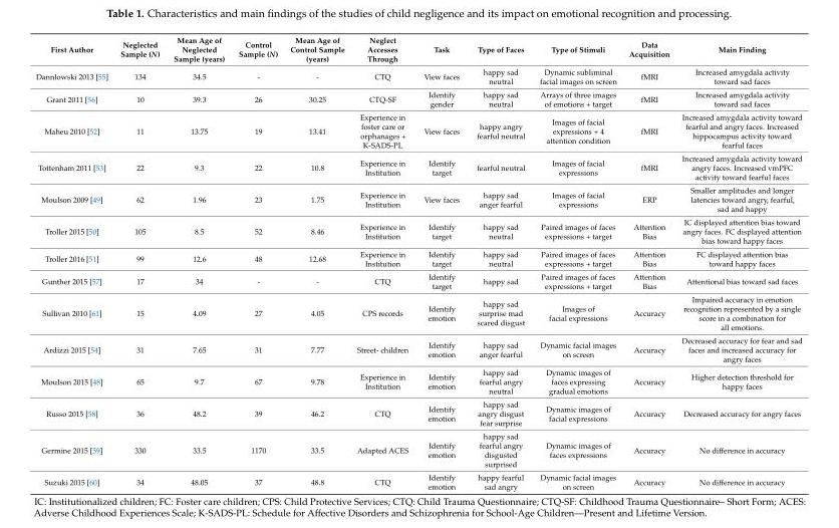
<table><thead><tr><td>First Author</td><td>Neglected Sample (N)</td><td>Mean Age of Neglected Sample (years)</td><td>Control Sample (N)</td><td>Mean Age of Control Sample (years)</td><td>Neglect Accesses Through</td><td>Task</td><td>Type of Faces</td><td>Type of Stimuli</td><td>Data Acquisition</td><td>Main Finding</td></tr></thead><tbody><tr><td>Dannlowski 2013 [55]</td><td>134</td><td>34.5</td><td>-</td><td>-</td><td>CTQ</td><td>View faces</td><td>happy sad neutral</td><td>Dynamic subliminal facial images on screen</td><td>fMRI</td><td>Increased amygdala activity toward sad faces</td></tr><tr><td>Grant 2011 [56]</td><td>10</td><td>39.3</td><td>26</td><td>30.25</td><td>CTQ-SF</td><td>Identify gender</td><td>happy sad neutral</td><td>Arrays of three images of emotions + target</td><td>fMRI</td><td>Increased amygdala activity toward sad faces</td></tr><tr><td>Maheu 2010 [52]</td><td>11</td><td>13.75</td><td>19</td><td>13.41</td><td>Experience in foster care or orphanages + K-SADS-PL</td><td>View faces</td><td>happy angry fearful neutral</td><td>Images of facial expressions + 4 attention condition</td><td>fMRI</td><td>Increased amygdala activity toward fearful and angry faces. Increased hippocampus activity toward fearful faces</td></tr><tr><td>Tottenham 2011 [53]</td><td>22</td><td>9.3</td><td>22</td><td>10.8</td><td>Experience in Institution</td><td>Identify target</td><td>fearful neutral</td><td>Images of facial expressions</td><td>fMRI</td><td>Increased amygdala activity toward angry faces. Increased vmPFC activity toward fearful faces</td></tr><tr><td>Moulson 2009 [49]</td><td>62</td><td>1.96</td><td>23</td><td>1.75</td><td>Experience in Institution</td><td>View faces</td><td>happy sad anger fearful</td><td>Images of facial expressions</td><td>ERP</td><td>Smaller amplitudes and longer latencies toward angry, fearful, sad and happy</td></tr><tr><td>Troller 2015 [50]</td><td>105</td><td>8.5</td><td>52</td><td>8.46</td><td>Experience in Institution</td><td>Identify target</td><td>happy sad neutral</td><td>Paired images of faces expressions + target</td><td>Attention Bias</td><td>IC displayed attention bias toward angry faces. FC displayed attention bias toward happy faces</td></tr><tr><td>Troller 2016 [51]</td><td>99</td><td>12.6</td><td>48</td><td>12.68</td><td>Experience in Institution</td><td>Identify target</td><td>happy sad neutral</td><td>Paired images of faces expressions + target</td><td>Attention Bias</td><td>FC displayed attention bias toward happy faces</td></tr><tr><td>Gunther 2015 [57]</td><td>17</td><td>34</td><td>-</td><td>-</td><td>CTQ</td><td>Identify target</td><td>happy sad</td><td>Paired images of faces expressions + target</td><td>Attention Bias</td><td>Attentional bias toward sad faces</td></tr><tr><td>Sullivan 2010 [61]</td><td>15</td><td>4.09</td><td>27</td><td>4.05</td><td>CPS records</td><td>Identify emotion</td><td>happy sad surprise mad scared disgust</td><td>Images of facial expressions</td><td>Accuracy</td><td>Impaired accuracy in emotion recognition represented by a single score in a combination for all emotions.</td></tr><tr><td>Ardizzi 2015 [54]</td><td>31</td><td>7.65</td><td>31</td><td>7.77</td><td>Street- children</td><td>Identify emotion</td><td>happy sad anger fearful</td><td>Dynamic facial images on screen</td><td>Accuracy</td><td>Decreased accuracy for fear and sad faces and increased accuracy for angry faces</td></tr><tr><td>Moulson 2015 [48]</td><td>65</td><td>9.7</td><td>67</td><td>9.78</td><td>Experience in Institution</td><td>Identify emotion</td><td>happy sad fearful angry neutral</td><td>Dynamic images of faces expressing gradual emotions</td><td>Accuracy</td><td>Higher detection threshold for happy faces</td></tr><tr><td>Russo 2015 [58]</td><td>36</td><td>48.2</td><td>39</td><td>46.2</td><td>CTQ</td><td>Identify emotion</td><td>happy sad angry disgust fear surprise</td><td>Dynamic images of facial expressions</td><td>Accuracy</td><td>Decreased accuracy for angry faces</td></tr><tr><td>Germine 2015 [59]</td><td>330</td><td>33.5</td><td>1170</td><td>33.5</td><td>Adapted ACES</td><td>Identify emotion</td><td>happy sad fearful angry disgusted surprised</td><td>Dynamic images of faces expressions</td><td>Accuracy</td><td>No difference in accuracy</td></tr><tr><td>Suzuki 2015 [60]</td><td>34</td><td>48.05</td><td>37</td><td>48.8</td><td>CTQ</td><td>Identify emotion</td><td>happy fearful sad angry</td><td>Dynamic facial images on screen</td><td>Accuracy</td><td>No difference in accuracy</td></tr></tbody></table>